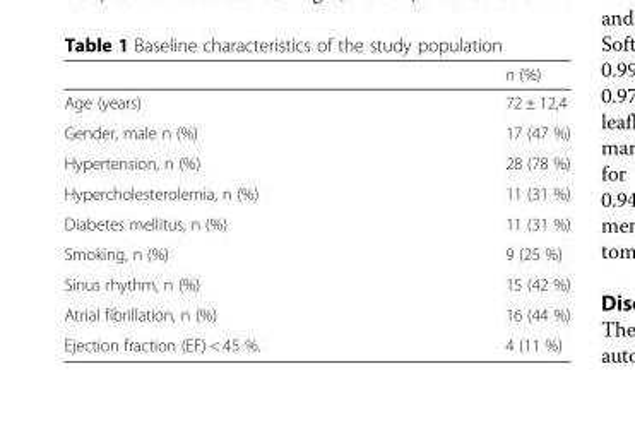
<table><thead><tr><td></td><td>n (%)</td></tr></thead><tbody><tr><td>Age (years)</td><td>72 ± 12,4</td></tr><tr><td>Gender, male n (%)</td><td>17 (47 %)</td></tr><tr><td>Hypertension, n (%)</td><td>28 (78 %)</td></tr><tr><td>Hypercholesterolemia, n (%)</td><td>11 (31 %)</td></tr><tr><td>Diabetes mellitus, n (%)</td><td>11 (31 %)</td></tr><tr><td>Smoking, n (%)</td><td>9 (25 %)</td></tr><tr><td>Sinus rhythm, n (%)</td><td>15 (42 %)</td></tr><tr><td>Atrial fibrillation, n (%)</td><td>16 (44 %)</td></tr><tr><td>Ejection fraction (EF) &lt; 45 %.</td><td>4 (11 %)</td></tr></tbody></table>